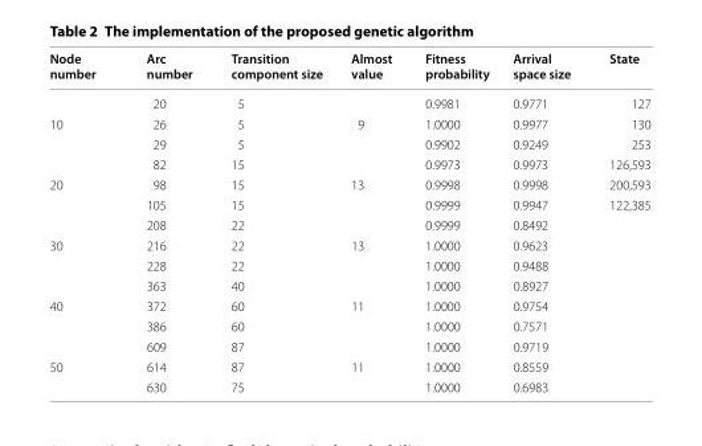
<table><thead><tr><td>Node number</td><td>Arc number</td><td>Transition component size</td><td>Almost value</td><td>Fitness probability</td><td>Arrival space size</td><td>State</td></tr></thead><tbody><tr><td></td><td>20</td><td>5</td><td></td><td>0.9981</td><td>0.9771</td><td>127</td></tr><tr><td rowspan="3">10</td><td>26</td><td>5</td><td>9</td><td>1.0000</td><td>0.9977</td><td>130</td></tr><tr><td>29</td><td>5</td><td></td><td>0.9902</td><td>0.9249</td><td>253</td></tr><tr><td>82</td><td>15</td><td></td><td>0.9973</td><td>0.9973</td><td>126,593</td></tr><tr><td rowspan="3">20</td><td>98</td><td>15</td><td>13</td><td>0.9998</td><td>0.9998</td><td>200,593</td></tr><tr><td>105</td><td>15</td><td></td><td>0.9999</td><td>0.9947</td><td>122,385</td></tr><tr><td>208</td><td>22</td><td></td><td>0.9999</td><td>0.8492</td><td></td></tr><tr><td rowspan="3">30</td><td>216</td><td>22</td><td>13</td><td>1.0000</td><td>0.9623</td><td></td></tr><tr><td>228</td><td>22</td><td></td><td>1.0000</td><td>0.9488</td><td></td></tr><tr><td>363</td><td>40</td><td></td><td>1.0000</td><td>0.8927</td><td></td></tr><tr><td rowspan="3">40</td><td>372</td><td>60</td><td>11</td><td>1.0000</td><td>0.9754</td><td></td></tr><tr><td>386</td><td>60</td><td></td><td>1.0000</td><td>0.7571</td><td></td></tr><tr><td>609</td><td>87</td><td></td><td>1.0000</td><td>0.9719</td><td></td></tr><tr><td rowspan="2">50</td><td>614</td><td>87</td><td>11</td><td>1.0000</td><td>0.8559</td><td></td></tr><tr><td>630</td><td>75</td><td></td><td>1.0000</td><td>0.6983</td><td></td></tr></tbody></table>